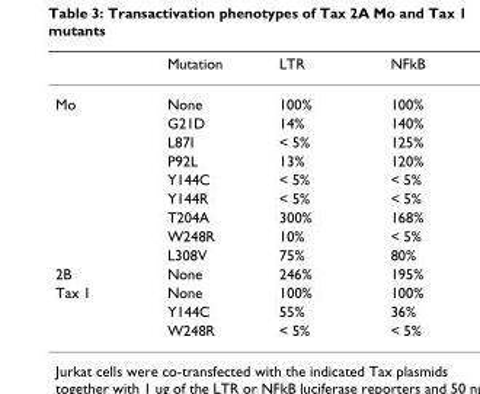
<table><thead><tr><td></td><td>Mutation</td><td>LTR</td><td>NFkB</td></tr></thead><tbody><tr><td rowspan="9">Mo</td><td>None</td><td>100%</td><td>100%</td></tr><tr><td>G21D</td><td>14%</td><td>140%</td></tr><tr><td>L87I</td><td>&lt; 5%</td><td>125%</td></tr><tr><td>P92L</td><td>13%</td><td>120%</td></tr><tr><td>Y144C</td><td>&lt; 5%</td><td>&lt; 5%</td></tr><tr><td>Y144R</td><td>&lt; 5%</td><td>&lt; 5%</td></tr><tr><td>T204A</td><td>300%</td><td>168%</td></tr><tr><td>W248R</td><td>10%</td><td>&lt; 5%</td></tr><tr><td>L308V</td><td>75%</td><td>80%</td></tr><tr><td>2B</td><td>None</td><td>246%</td><td>195%</td></tr><tr><td rowspan="3">Tax 1</td><td>None</td><td>100%</td><td>100%</td></tr><tr><td>Y144C</td><td>55%</td><td>36%</td></tr><tr><td>W248R</td><td>&lt; 5%</td><td>&lt; 5%</td></tr></tbody></table>